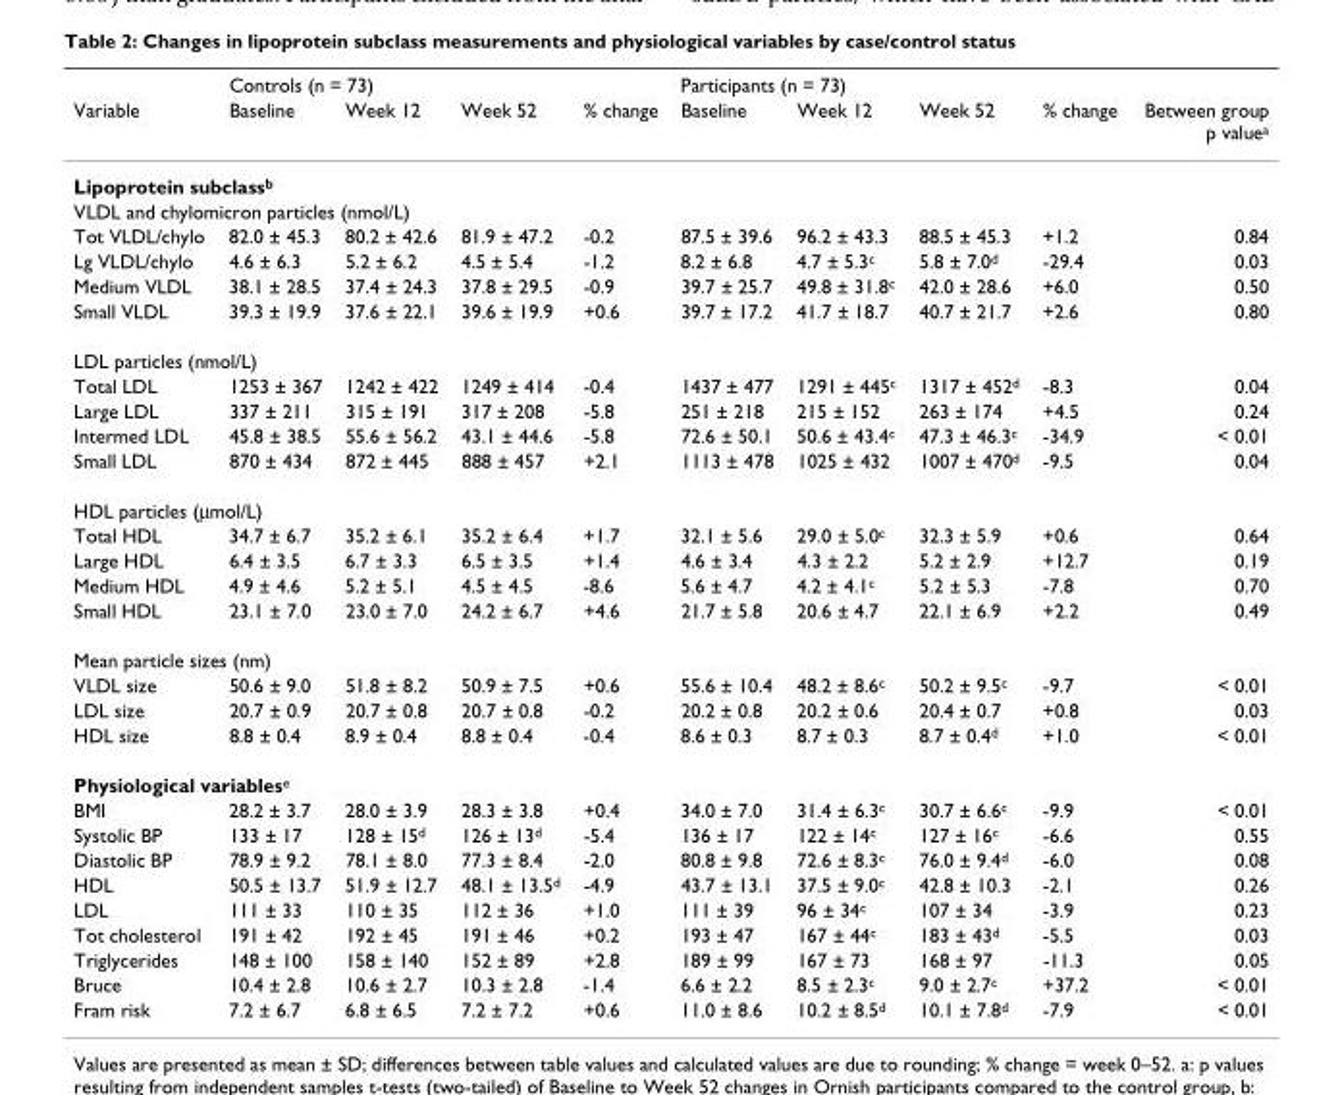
<table><thead><tr><td rowspan="2">Variable</td><td colspan="4">Controls (n = 73)</td><td colspan="5">Participants (n = 73)</td></tr><tr><td>Baseline</td><td>Week 12</td><td>Week 52</td><td>% change</td><td>Baseline</td><td>Week 12</td><td>Week 52</td><td>% change</td><td>Between group p value<sup>a</sup></td></tr></thead><tbody><tr><td colspan="10">Lipoprotein subclass<sup>b</sup></td></tr><tr><td colspan="10">VLDL and chylomicron particles (nmol/L)</td></tr><tr><td>Tot VLDL/chylo</td><td>82.0 ± 45.3</td><td>80.2 ± 42.6</td><td>81.9 ± 47.2</td><td>-0.2</td><td>87.5 ± 39.6</td><td>96.2 ± 43.3</td><td>88.5 ± 45.3</td><td>+1.2</td><td>0.84</td></tr><tr><td>Lg VLDL/chylo</td><td>4.6 ± 6.3</td><td>5.2 ± 6.2</td><td>4.5 ± 5.4</td><td>-1.2</td><td>8.2 ± 6.8</td><td>4.7 ± 5.3<sup>c</sup></td><td>5.8 ± 7.0<sup>d</sup></td><td>-29.4</td><td>0.03</td></tr><tr><td>Medium VLDL</td><td>38.1 ± 28.5</td><td>37.4 ± 24.3</td><td>37.8 ± 29.5</td><td>-0.9</td><td>39.7 ± 25.7</td><td>49.8 ± 31.8<sup>c</sup></td><td>42.0 ± 28.6</td><td>+6.0</td><td>0.50</td></tr><tr><td>Small VLDL</td><td>39.3 ± 19.9</td><td>37.6 ± 22.1</td><td>39.6 ± 19.9</td><td>+0.6</td><td>39.7 ± 17.2</td><td>41.7 ± 18.7</td><td>40.7 ± 21.7</td><td>+2.6</td><td>0.80</td></tr><tr><td colspan="10">LDL particles (nmol/L)</td></tr><tr><td>Total LDL</td><td>1253 ± 367</td><td>1242 ± 422</td><td>1249 ± 414</td><td>-0.4</td><td>1437 ± 477</td><td>1291 ± 445<sup>c</sup></td><td>1317 ± 452<sup>d</sup></td><td>-8.3</td><td>0.04</td></tr><tr><td>Large LDL</td><td>337 ± 211</td><td>315 ± 191</td><td>317 ± 208</td><td>-5.8</td><td>251 ± 218</td><td>215 ± 152</td><td>263 ± 174</td><td>+4.5</td><td>0.24</td></tr><tr><td>Intermed LDL</td><td>45.8 ± 38.5</td><td>55.6 ± 56.2</td><td>43.1 ± 44.6</td><td>-5.8</td><td>72.6 ± 50.1</td><td>50.6 ± 43.4<sup>c</sup></td><td>47.3 ± 46.3<sup>c</sup></td><td>-34.9</td><td>&lt; 0.01</td></tr><tr><td>Small LDL</td><td>870 ± 434</td><td>872 ± 445</td><td>888 ± 457</td><td>+2.1</td><td>1113 ± 478</td><td>1025 ± 432</td><td>1007 ± 470<sup>d</sup></td><td>-9.5</td><td>0.04</td></tr><tr><td colspan="10">HDL particles (μmol/L)</td></tr><tr><td>Total HDL</td><td>34.7 ± 6.7</td><td>35.2 ± 6.1</td><td>35.2 ± 6.4</td><td>+1.7</td><td>32.1 ± 5.6</td><td>29.0 ± 5.0<sup>c</sup></td><td>32.3 ± 5.9</td><td>+0.6</td><td>0.64</td></tr><tr><td>Large HDL</td><td>6.4 ± 3.5</td><td>6.7 ± 3.3</td><td>6.5 ± 3.5</td><td>+1.4</td><td>4.6 ± 3.4</td><td>4.3 ± 2.2</td><td>5.2 ± 2.9</td><td>+12.7</td><td>0.19</td></tr><tr><td>Medium HDL</td><td>4.9 ± 4.6</td><td>5.2 ± 5.1</td><td>4.5 ± 4.5</td><td>-8.6</td><td>5.6 ± 4.7</td><td>4.2 ± 4.1<sup>c</sup></td><td>5.2 ± 5.3</td><td>-7.8</td><td>0.70</td></tr><tr><td>Small HDL</td><td>23.1 ± 7.0</td><td>23.0 ± 7.0</td><td>24.2 ± 6.7</td><td>+4.6</td><td>21.7 ± 5.8</td><td>20.6 ± 4.7</td><td>22.1 ± 6.9</td><td>+2.2</td><td>0.49</td></tr><tr><td colspan="10">Mean particle sizes (nm)</td></tr><tr><td>VLDL size</td><td>50.6 ± 9.0</td><td>51.8 ± 8.2</td><td>50.9 ± 7.5</td><td>+0.6</td><td>55.6 ± 10.4</td><td>48.2 ± 8.6<sup>c</sup></td><td>50.2 ± 9.5<sup>c</sup></td><td>-9.7</td><td>&lt; 0.01</td></tr><tr><td>LDL size</td><td>20.7 ± 0.9</td><td>20.7 ± 0.8</td><td>20.7 ± 0.8</td><td>-0.2</td><td>20.2 ± 0.8</td><td>20.2 ± 0.6</td><td>20.4 ± 0.7</td><td>+0.8</td><td>0.03</td></tr><tr><td>HDL size</td><td>8.8 ± 0.4</td><td>8.9 ± 0.4</td><td>8.8 ± 0.4</td><td>-0.4</td><td>8.6 ± 0.3</td><td>8.7 ± 0.3</td><td>8.7 ± 0.4<sup>d</sup></td><td>+1.0</td><td>&lt; 0.01</td></tr><tr><td colspan="10">Physiological variables<sup>e</sup></td></tr><tr><td>BMI</td><td>28.2 ± 3.7</td><td>28.0 ± 3.9</td><td>28.3 ± 3.8</td><td>+0.4</td><td>34.0 ± 7.0</td><td>31.4 ± 6.3<sup>c</sup></td><td>30.7 ± 6.6<sup>c</sup></td><td>-9.9</td><td>&lt; 0.01</td></tr><tr><td>Systolic BP</td><td>133 ± 17</td><td>128 ± 15<sup>d</sup></td><td>126 ± 13<sup>d</sup></td><td>-5.4</td><td>136 ± 17</td><td>122 ± 14<sup>c</sup></td><td>127 ± 16<sup>c</sup></td><td>-6.6</td><td>0.55</td></tr><tr><td>Diastolic BP</td><td>78.9 ± 9.2</td><td>78.1 ± 8.0</td><td>77.3 ± 8.4</td><td>-2.0</td><td>80.8 ± 9.8</td><td>72.6 ± 8.3<sup>c</sup></td><td>76.0 ± 9.4<sup>d</sup></td><td>-6.0</td><td>0.08</td></tr><tr><td>HDL</td><td>50.5 ± 13.7</td><td>51.9 ± 12.7</td><td>48.1 ± 13.5<sup>d</sup></td><td>-4.9</td><td>43.7 ± 13.1</td><td>37.5 ± 9.0<sup>c</sup></td><td>42.8 ± 10.3</td><td>-2.1</td><td>0.26</td></tr><tr><td>LDL</td><td>111 ± 33</td><td>110 ± 35</td><td>112 ± 36</td><td>+1.0</td><td>111 ± 39</td><td>96 ± 34<sup>c</sup></td><td>107 ± 34</td><td>-3.9</td><td>0.23</td></tr><tr><td>Tot cholesterol</td><td>191 ± 42</td><td>192 ± 45</td><td>191 ± 46</td><td>+0.2</td><td>193 ± 47</td><td>167 ± 44<sup>c</sup></td><td>183 ± 43<sup>d</sup></td><td>-5.5</td><td>0.03</td></tr><tr><td>Triglycerides</td><td>148 ± 100</td><td>158 ± 140</td><td>152 ± 89</td><td>+2.8</td><td>189 ± 99</td><td>167 ± 73</td><td>168 ± 97</td><td>-11.3</td><td>0.05</td></tr><tr><td>Bruce</td><td>10.4 ± 2.8</td><td>10.6 ± 2.7</td><td>10.3 ± 2.8</td><td>-1.4</td><td>6.6 ± 2.2</td><td>8.5 ± 2.3<sup>c</sup></td><td>9.0 ± 2.7<sup>c</sup></td><td>+37.2</td><td>&lt; 0.01</td></tr><tr><td>Fram risk</td><td>7.2 ± 6.7</td><td>6.8 ± 6.5</td><td>7.2 ± 7.2</td><td>+0.6</td><td>11.0 ± 8.6</td><td>10.2 ± 8.5<sup>d</sup></td><td>10.1 ± 7.8<sup>d</sup></td><td>-7.9</td><td>&lt; 0.01</td></tr></tbody></table>